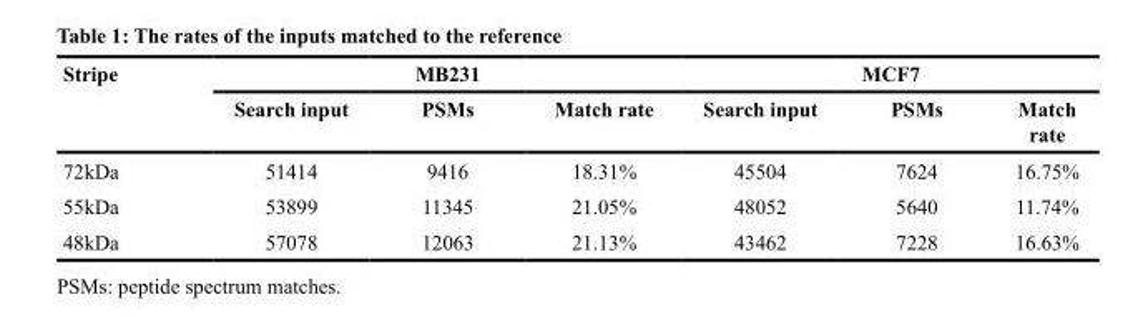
<table><thead><tr><td rowspan="2">Stripe</td><td colspan="3">MB231</td><td colspan="3">MCF7</td></tr><tr><td>Search input</td><td>PSMs</td><td>Match rate</td><td>Search input</td><td>PSMs</td><td>Match rate</td></tr></thead><tbody><tr><td>72kDa</td><td>51414</td><td>9416</td><td>18.31%</td><td>45504</td><td>7624</td><td>16.75%</td></tr><tr><td>55kDa</td><td>53899</td><td>11345</td><td>21.05%</td><td>48052</td><td>5640</td><td>11.74%</td></tr><tr><td>48kDa</td><td>57078</td><td>12063</td><td>21.13%</td><td>43462</td><td>7228</td><td>16.63%</td></tr></tbody></table>